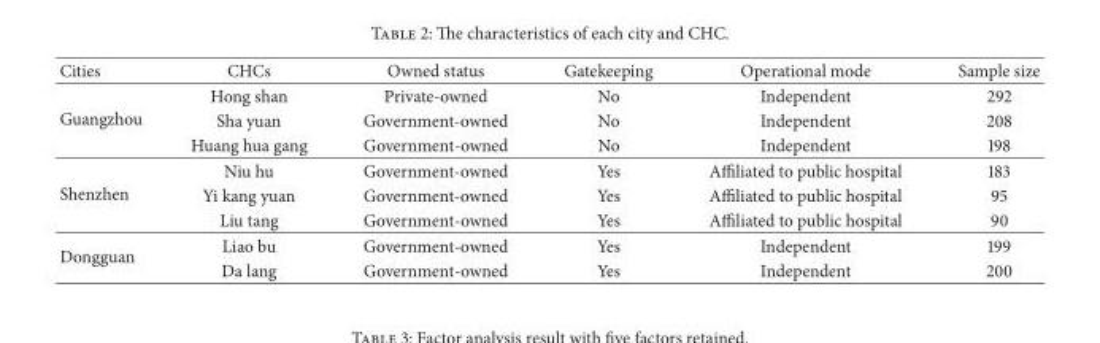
<table><thead><tr><td>Cities</td><td>CHCs</td><td>Owned status</td><td>Gatekeeping</td><td>Operational mode</td><td>Sample size</td></tr></thead><tbody><tr><td rowspan="3">Guangzhou</td><td>Hong shan</td><td>Private-owned</td><td>No</td><td>Independent</td><td>292</td></tr><tr><td>Sha yuan</td><td>Government-owned</td><td>No</td><td>Independent</td><td>208</td></tr><tr><td>Huang hua gang</td><td>Government-owned</td><td>No</td><td>Independent</td><td>198</td></tr><tr><td rowspan="3">Shenzhen</td><td>Niu hu</td><td>Government-owned</td><td>Yes</td><td>Affiliated to public hospital</td><td>183</td></tr><tr><td>Yi kang yuan</td><td>Government-owned</td><td>Yes</td><td>Affiliated to public hospital</td><td>95</td></tr><tr><td>Liu tang</td><td>Government-owned</td><td>Yes</td><td>Affiliated to public hospital</td><td>90</td></tr><tr><td rowspan="2">Dongguan</td><td>Liao bu</td><td>Government-owned</td><td>Yes</td><td>Independent</td><td>199</td></tr><tr><td>Da lang</td><td>Government-owned</td><td>Yes</td><td>Independent</td><td>200</td></tr></tbody></table>